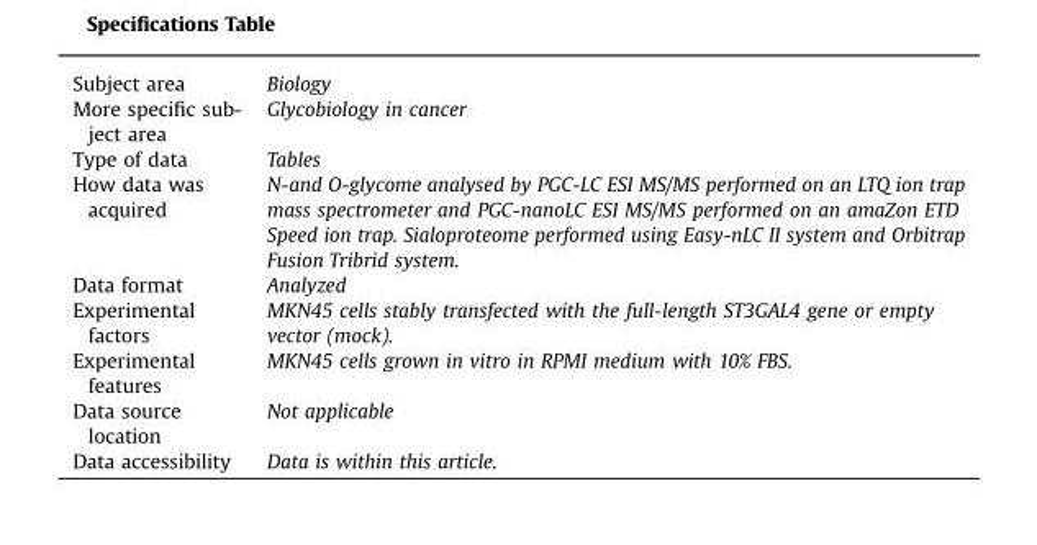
<table><tbody><tr><td>Subject area</td><td>Biology</td></tr><tr><td>More specific sub- ject area</td><td>Glycobiology in cancer</td></tr><tr><td>Type of data</td><td>Tables</td></tr><tr><td>How data was acquired</td><td>N-and O-glycome analysed by PGC-LC ESI MS/MS performed on an LTQ ion trap mass spectrometer and PGC-nanoLC ESI MS/MS performed on an amaZon ETD Speed ion trap. Sialoproteome performed using Easy-nLC II system and Orbitrap Fusion Tribrid system.</td></tr><tr><td>Data format</td><td>Analyzed</td></tr><tr><td>Experimental factors</td><td>MKN45 cells stably transfected with the full-length ST3GAL4 gene or empty vector (mock).</td></tr><tr><td>Experimental features</td><td>MKN45 cells grown in vitro in RPMI medium with 10% FBS.</td></tr><tr><td>Data source location</td><td>Not applicable</td></tr><tr><td>Data accessibility</td><td>Data is within this article.</td></tr></tbody></table>